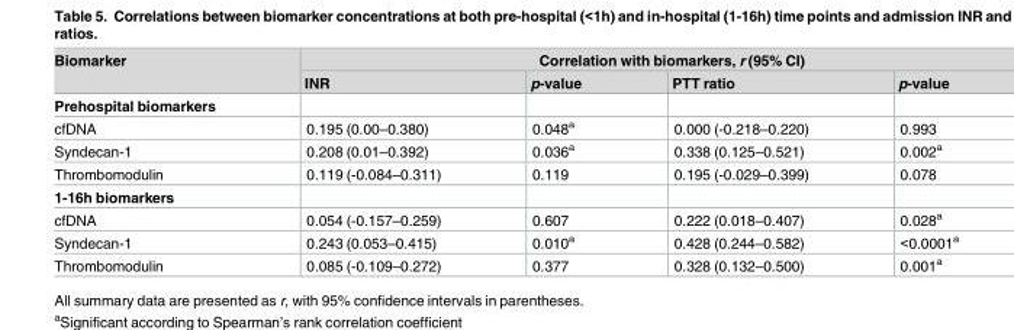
<table><thead><tr><td rowspan="2">Biomarker</td><td colspan="4">Correlation with biomarkers, r (95% CI)</td></tr><tr><td>INR</td><td>p-value</td><td>PTT ratio</td><td>p-value</td></tr></thead><tbody><tr><td colspan="5">Prehospital biomarkers</td></tr><tr><td>cfDNA</td><td>0.195 (0.00–0.380)</td><td>0.048<sup>a</sup></td><td>0.000 (-0.218–0.220)</td><td>0.993</td></tr><tr><td>Syndecan-1</td><td>0.208 (0.01–0.392)</td><td>0.036<sup>a</sup></td><td>0.338 (0.125–0.521)</td><td>0.002<sup>a</sup></td></tr><tr><td>Thrombomodulin</td><td>0.119 (-0.084–0.311)</td><td>0.119</td><td>0.195 (-0.029–0.399)</td><td>0.078</td></tr><tr><td colspan="5">1-16h biomarkers</td></tr><tr><td>cfDNA</td><td>0.054 (-0.157–0.259)</td><td>0.607</td><td>0.222 (0.018–0.407)</td><td>0.028<sup>a</sup></td></tr><tr><td>Syndecan-1</td><td>0.243 (0.053–0.415)</td><td>0.010<sup>a</sup></td><td>0.428 (0.244–0.582)</td><td>&lt;0.0001<sup>a</sup></td></tr><tr><td>Thrombomodulin</td><td>0.085 (-0.109–0.272)</td><td>0.377</td><td>0.328 (0.132–0.500)</td><td>0.001<sup>a</sup></td></tr></tbody></table>